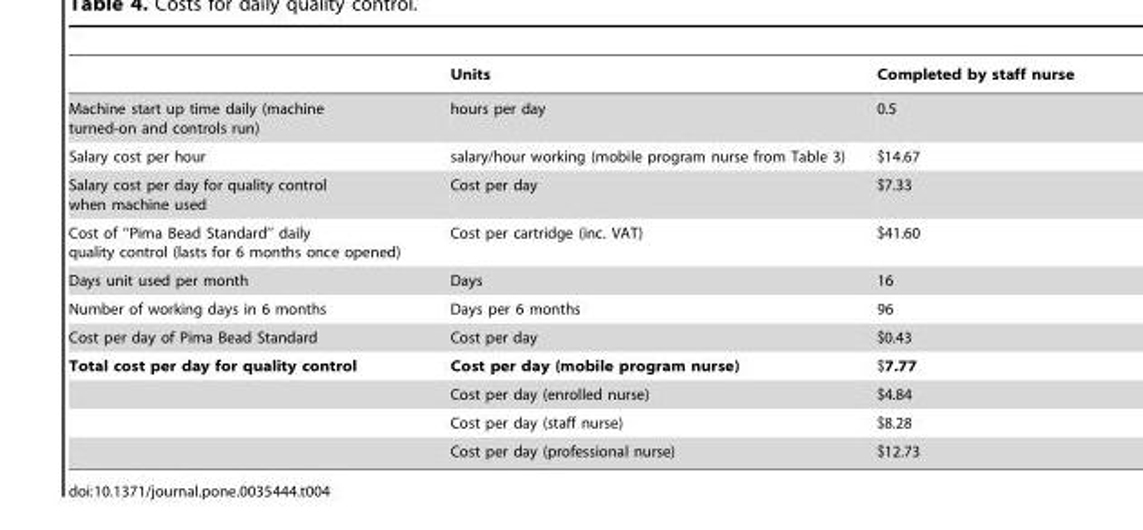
<table><thead><tr><td></td><td>Units</td><td>Completed by staff nurse</td></tr></thead><tbody><tr><td>Machine start up time daily (machine turned-on and controls run)</td><td>hours per day</td><td>0.5</td></tr><tr><td>Salary cost per hour</td><td>salary/hour working (mobile program nurse from Table 3)</td><td>$14.67</td></tr><tr><td>Salary cost per day for quality control when machine used</td><td>Cost per day</td><td>$7.33</td></tr><tr><td>Cost of ‘‘Pima Bead Standard’’ daily quality control (lasts for 6 months once opened)</td><td>Cost per cartridge (inc. VAT)</td><td>$41.60</td></tr><tr><td>Days unit used per month</td><td>Days</td><td>16</td></tr><tr><td>Number of working days in 6 months</td><td>Days per 6 months</td><td>96</td></tr><tr><td>Cost per day of Pima Bead Standard</td><td>Cost per day</td><td>$0.43</td></tr><tr><td rowspan="4">Total cost per day for quality control</td><td>Cost per day (mobile program nurse)</td><td>$7.77</td></tr><tr><td>Cost per day (enrolled nurse)</td><td>$4.84</td></tr><tr><td>Cost per day (staff nurse)</td><td>$8.28</td></tr><tr><td>Cost per day (professional nurse)</td><td>$12.73</td></tr></tbody></table>